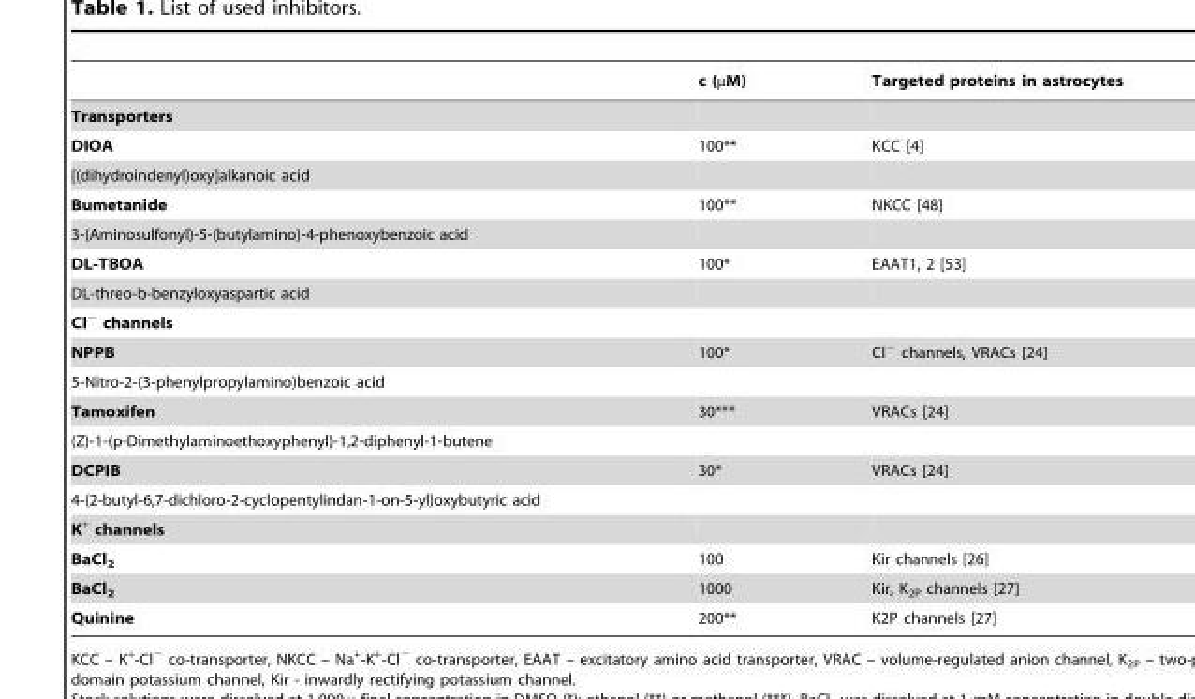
<table><thead><tr><td></td><td>c (µM)</td><td>Targeted proteins in astrocytes</td></tr></thead><tbody><tr><td colspan="3">Transporters</td></tr><tr><td>DIOA</td><td>100**</td><td>KCC [4]</td></tr><tr><td colspan="3">[(dihydroindenyl)oxy]alkanoic acid</td></tr><tr><td>Bumetanide</td><td>100**</td><td>NKCC [48]</td></tr><tr><td colspan="3">3-(Aminosulfonyl)-5-(butylamino)-4-phenoxybenzoic acid</td></tr><tr><td>DL-TBOA</td><td>100*</td><td>EAAT1, 2 [53]</td></tr><tr><td colspan="3">DL-threo-b-benzyloxyaspartic acid</td></tr><tr><td colspan="3">Cl<sup>−</sup> channels</td></tr><tr><td>NPPB</td><td>100*</td><td>Cl<sup>−</sup> channels, VRACs [24]</td></tr><tr><td colspan="3">5-Nitro-2-(3-phenylpropylamino)benzoic acid</td></tr><tr><td>Tamoxifen</td><td>30***</td><td>VRACs [24]</td></tr><tr><td colspan="3">(Z)-1-(p-Dimethylaminoethoxyphenyl)-1,2-diphenyl-1-butene</td></tr><tr><td>DCPIB</td><td>30*</td><td>VRACs [24]</td></tr><tr><td colspan="3">4-(2-butyl-6,7-dichloro-2-cyclopentylindan-1-on-5-yl)oxybutyric acid</td></tr><tr><td colspan="3">K<sup>+</sup> channels</td></tr><tr><td>BaCl<sub>2</sub></td><td>100</td><td>Kir channels [26]</td></tr><tr><td>BaCl<sub>2</sub></td><td>1000</td><td>Kir, K<sub>2P</sub> channels [27]</td></tr><tr><td>Quinine</td><td>200**</td><td>K2P channels [27]</td></tr></tbody></table>